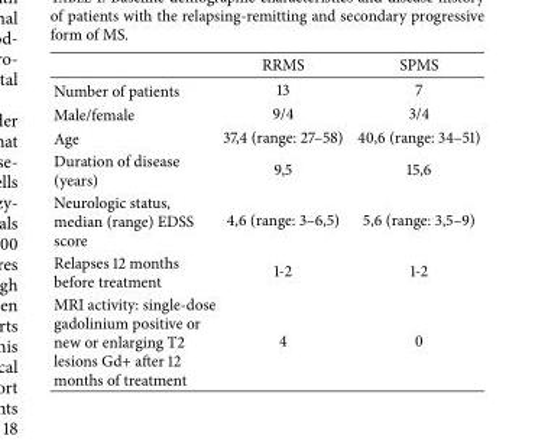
<table><thead><tr><td></td><td>RRMS</td><td>SPMS</td></tr></thead><tbody><tr><td>Number of patients</td><td>13</td><td>7</td></tr><tr><td>Male/female</td><td>9/4</td><td>3/4</td></tr><tr><td>Age</td><td>37,4 (range: 27–58)</td><td>40,6 (range: 34–51)</td></tr><tr><td>Duration of disease (years)</td><td>9,5</td><td>15,6</td></tr><tr><td>Neurologic status, median (range) EDSS score</td><td>4,6 (range: 3–6,5)</td><td>5,6 (range: 3,5–9)</td></tr><tr><td>Relapses 12 months before treatment</td><td>1-2</td><td>1-2</td></tr><tr><td>MRI activity: single-dose gadolinium positive or new or enlarging T2 lesions Gd+ after 12 months of treatment</td><td>4</td><td>0</td></tr></tbody></table>